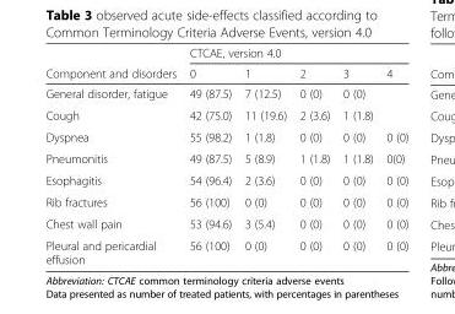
<table><thead><tr><td rowspan="2">Component and disorders</td><td colspan="5">CTCAE, version 4.0</td></tr><tr><td>0</td><td>1</td><td>2</td><td>3</td><td>4</td></tr></thead><tbody><tr><td>General disorder, fatigue</td><td>49 (87.5)</td><td>7 (12.5)</td><td>0 (0)</td><td>0 (0)</td><td></td></tr><tr><td>Cough</td><td>42 (75.0)</td><td>11 (19.6)</td><td>2 (3.6)</td><td>1 (1.8)</td><td></td></tr><tr><td>Dyspnea</td><td>55 (98.2)</td><td>1 (1.8)</td><td>0 (0)</td><td>0 (0)</td><td>0 (0)</td></tr><tr><td>Pneumonitis</td><td>49 (87.5)</td><td>5 (8.9)</td><td>1 (1.8)</td><td>1 (1.8)</td><td>0(0)</td></tr><tr><td>Esophagitis</td><td>54 (96.4)</td><td>2 (3.6)</td><td>0 (0)</td><td>0 (0)</td><td>0 (0)</td></tr><tr><td>Rib fractures</td><td>56 (100)</td><td>0 (0)</td><td>0 (0)</td><td>0 (0)</td><td>0 (0)</td></tr><tr><td>Chest wall pain</td><td>53 (94.6)</td><td>3 (5.4)</td><td>0 (0)</td><td>0 (0)</td><td>0 (0)</td></tr><tr><td>Pleural and pericardial effusion</td><td>56 (100)</td><td>0 (0)</td><td>0 (0)</td><td>0 (0)</td><td>0 (0)</td></tr></tbody></table>